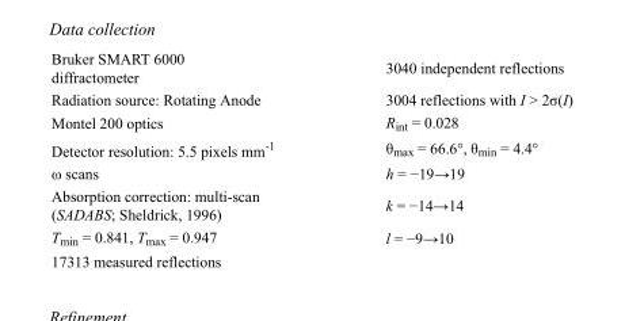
<table><tbody><tr><td>Bruker SMART 6000 diffractometer</td><td>3040 independent reflections</td></tr><tr><td>Radiation source: Rotating Anode</td><td>3004 reflections with I &gt; 2σ(I)</td></tr><tr><td>Montel 200 optics</td><td>R<sub>int</sub> = 0.028</td></tr><tr><td>Detector resolution: 5.5 pixels mm<sup>-1</sup></td><td>θ<sub>max</sub> = 66.6°, θ<sub>min</sub> = 4.4°</td></tr><tr><td>ω scans</td><td>h = −19→19</td></tr><tr><td>Absorption correction: multi-scan (SADABS; Sheldrick, 1996)</td><td>k = −14→14</td></tr><tr><td>T<sub>min</sub> = 0.841, T<sub>max</sub> = 0.947</td><td>l = −9→10</td></tr><tr><td>17313 measured reflections</td><td></td></tr></tbody></table>